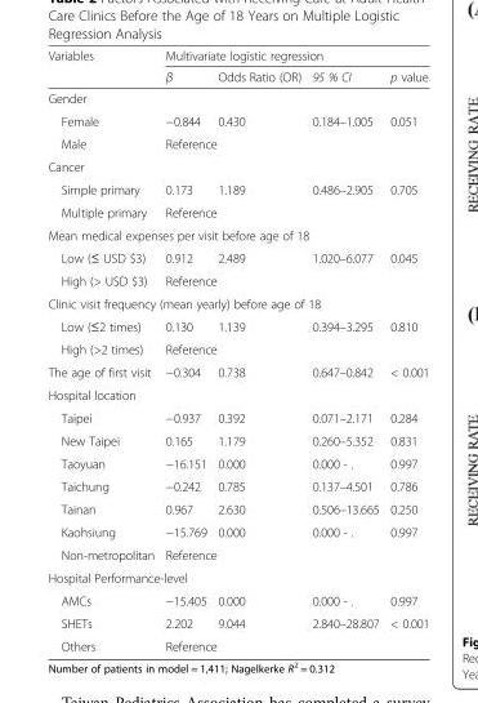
<table><thead><tr><td rowspan="2">Variables</td><td colspan="4">Multivariate logistic regression</td></tr><tr><td>β</td><td>Odds Ratio (OR)</td><td>95 % CI</td><td>p value</td></tr></thead><tbody><tr><td colspan="5">Gender</td></tr><tr><td>Female</td><td>−0.844</td><td>0.430</td><td>0.184–1.005</td><td>0.051</td></tr><tr><td>Male</td><td colspan="4">Reference</td></tr><tr><td colspan="5">Cancer</td></tr><tr><td>Simple primary</td><td>0.173</td><td>1.189</td><td>0.486–2.905</td><td>0.705</td></tr><tr><td>Multiple primary</td><td colspan="4">Reference</td></tr><tr><td colspan="5">Mean medical expenses per visit before age of 18</td></tr><tr><td>Low (≤ USD $3)</td><td>0.912</td><td>2.489</td><td>1.020–6.077</td><td>0.045</td></tr><tr><td>High (&gt; USD $3)</td><td colspan="4">Reference</td></tr><tr><td colspan="5">Clinic visit frequency (mean yearly) before age of 18</td></tr><tr><td>Low (≤2 times)</td><td>0.130</td><td>1.139</td><td>0.394–3.295</td><td>0.810</td></tr><tr><td>High (&gt;2 times)</td><td colspan="4">Reference</td></tr><tr><td>The age of first visit</td><td>−0.304</td><td>0.738</td><td>0.647–0.842</td><td>&lt; 0.001</td></tr><tr><td colspan="5">Hospital location</td></tr><tr><td>Taipei</td><td>−0.937</td><td>0.392</td><td>0.071–2.171</td><td>0.284</td></tr><tr><td>New Taipei</td><td>0.165</td><td>1.179</td><td>0.260–5.352</td><td>0.831</td></tr><tr><td>Taoyuan</td><td>−16.151</td><td>0.000</td><td>0.000 - .</td><td>0.997</td></tr><tr><td>Taichung</td><td>−0.242</td><td>0.785</td><td>0.137–4.501</td><td>0.786</td></tr><tr><td>Tainan</td><td>0.967</td><td>2.630</td><td>0.506–13.665</td><td>0.250</td></tr><tr><td>Kaohsiung</td><td>−15.769</td><td>0.000</td><td>0.000 - .</td><td>0.997</td></tr><tr><td>Non-metropolitan</td><td colspan="4">Reference</td></tr><tr><td colspan="5">Hospital Performance-level</td></tr><tr><td>AMCs</td><td>−15.405</td><td>0.000</td><td>0.000 - .</td><td>0.997</td></tr><tr><td>SHETs</td><td>2.202</td><td>9.044</td><td>2.840–28.807</td><td>&lt; 0.001</td></tr><tr><td>Others</td><td colspan="4">Reference</td></tr></tbody></table>